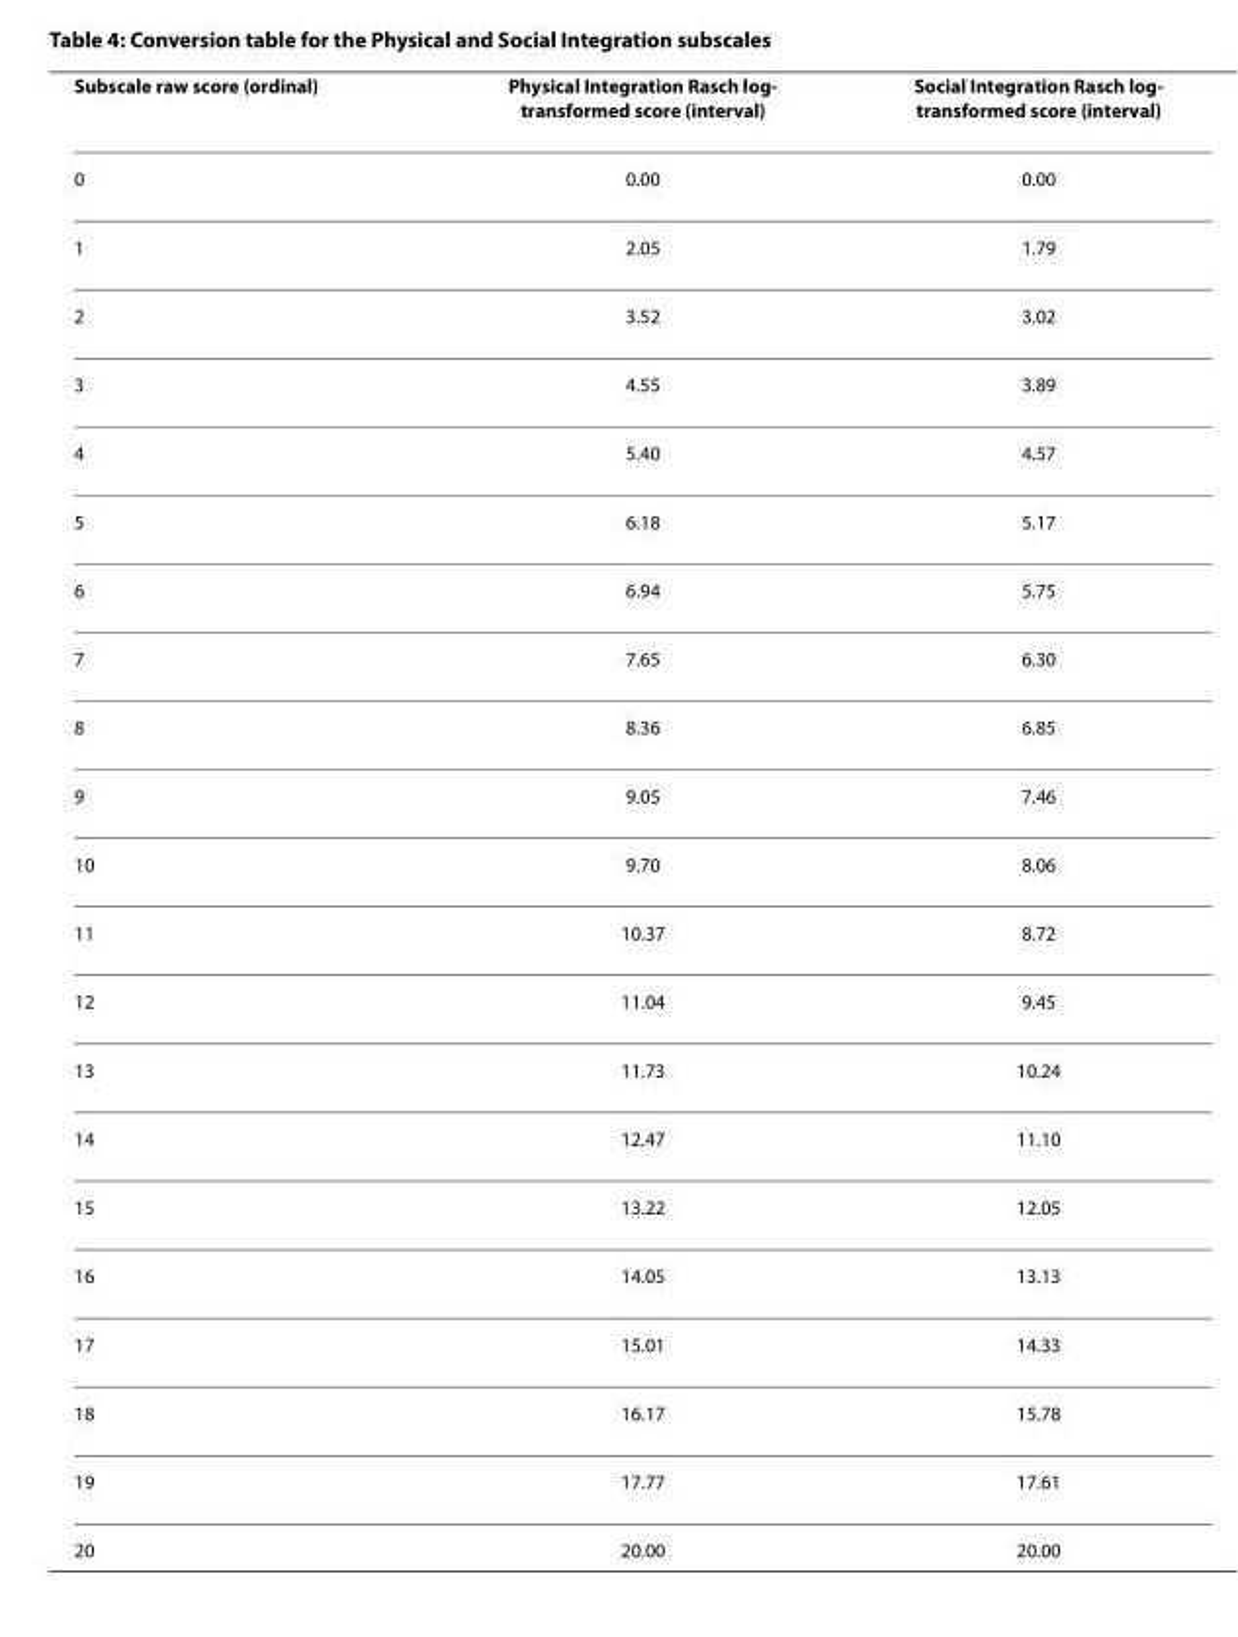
<table><thead><tr><td>Subscale raw score (ordinal)</td><td>Physical Integration Rasch log- transformed score (interval)</td><td>Social Integration Rasch log- transformed score (interval)</td></tr></thead><tbody><tr><td>0</td><td>0.00</td><td>0.00</td></tr><tr><td>1</td><td>2.05</td><td>1.79</td></tr><tr><td>2</td><td>3.52</td><td>3.02</td></tr><tr><td>3</td><td>4.55</td><td>3.89</td></tr><tr><td>4</td><td>5.40</td><td>4.57</td></tr><tr><td>5</td><td>6.18</td><td>5.17</td></tr><tr><td>6</td><td>6.94</td><td>5.75</td></tr><tr><td>7</td><td>7.65</td><td>6.30</td></tr><tr><td>8</td><td>8.36</td><td>6.85</td></tr><tr><td>9</td><td>9.05</td><td>7.46</td></tr><tr><td>10</td><td>9.70</td><td>8.06</td></tr><tr><td>11</td><td>10.37</td><td>8.72</td></tr><tr><td>12</td><td>11.04</td><td>9.45</td></tr><tr><td>13</td><td>11.73</td><td>10.24</td></tr><tr><td>14</td><td>12.47</td><td>11.10</td></tr><tr><td>15</td><td>13.22</td><td>12.05</td></tr><tr><td>16</td><td>14.05</td><td>13.13</td></tr><tr><td>17</td><td>15.01</td><td>14.33</td></tr><tr><td>18</td><td>16.17</td><td>15.78</td></tr><tr><td>19</td><td>17.77</td><td>17.61</td></tr><tr><td>20</td><td>20.00</td><td>20.00</td></tr></tbody></table>